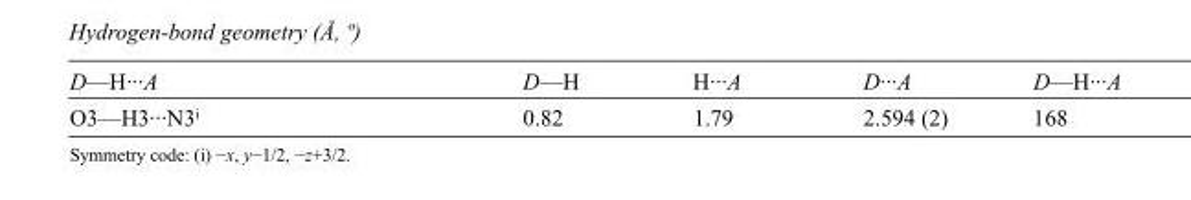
<table><tbody><tr><td>D—H···A</td><td>D—H</td><td>H···A</td><td>D···A</td><td>D—H···A</td></tr><tr><td>O3—H3···N3<sup>i</sup></td><td>0.82</td><td>1.79</td><td>2.594 (2)</td><td>168</td></tr></tbody></table>